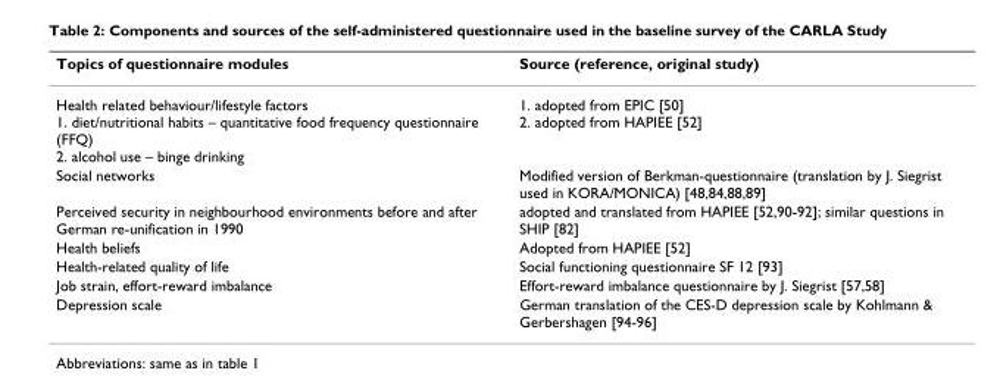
<table><thead><tr><td>Topics of questionnaire modules</td><td>Source (reference, original study)</td></tr></thead><tbody><tr><td>Health related behaviour/lifestyle factors 1. diet/nutritional habits – quantitative food frequency questionnaire (FFQ) 2. alcohol use – binge drinking</td><td>1. adopted from EPIC [50] 2. adopted from HAPIEE [52]</td></tr><tr><td>Social networks</td><td>Modified version of Berkman-questionnaire (translation by J. Siegrist used in KORA/MONICA) [48,84,88,89]</td></tr><tr><td>Perceived security in neighbourhood environments before and after German re-unification in 1990</td><td>adopted and translated from HAPIEE [52,90-92]; similar questions in SHIP [82]</td></tr><tr><td>Health beliefs</td><td>Adopted from HAPIEE [52]</td></tr><tr><td>Health-related quality of life</td><td>Social functioning questionnaire SF 12 [93]</td></tr><tr><td>Job strain, effort-reward imbalance</td><td>Effort-reward imbalance questionnaire by J. Siegrist [57,58]</td></tr><tr><td>Depression scale</td><td>German translation of the CES-D depression scale by Kohlmann &amp; Gerbershagen [94-96]</td></tr></tbody></table>